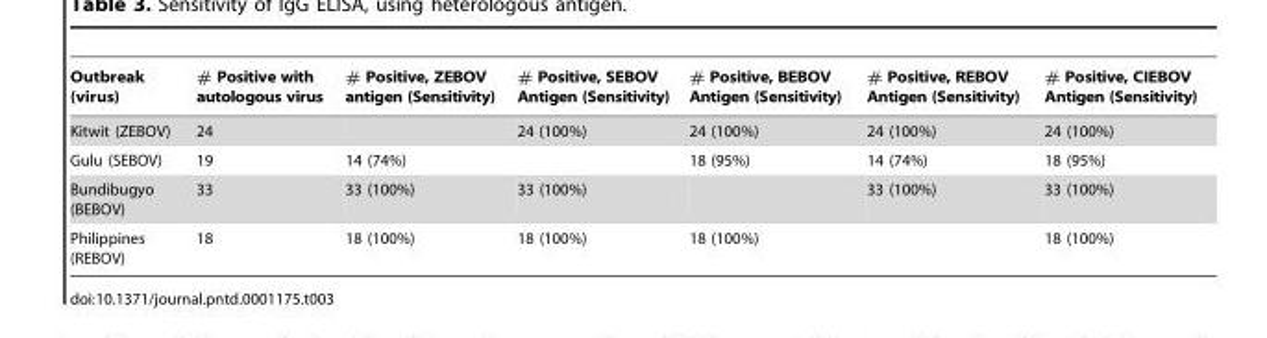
<table><thead><tr><td>Outbreak (virus)</td><td># Positive with autologous virus</td><td># Positive, ZEBOV antigen (Sensitivity)</td><td># Positive, SEBOV Antigen (Sensitivity)</td><td># Positive, BEBOV Antigen (Sensitivity)</td><td># Positive, REBOV Antigen (Sensitivity)</td><td># Positive, CIEBOV Antigen (Sensitivity)</td></tr></thead><tbody><tr><td>Kitwit (ZEBOV)</td><td>24</td><td></td><td>24 (100%)</td><td>24 (100%)</td><td>24 (100%)</td><td>24 (100%)</td></tr><tr><td>Gulu (SEBOV)</td><td>19</td><td>14 (74%)</td><td></td><td>18 (95%)</td><td>14 (74%)</td><td>18 (95%)</td></tr><tr><td>Bundibugyo (BEBOV)</td><td>33</td><td>33 (100%)</td><td>33 (100%)</td><td></td><td>33 (100%)</td><td>33 (100%)</td></tr><tr><td>Philippines (REBOV)</td><td>18</td><td>18 (100%)</td><td>18 (100%)</td><td>18 (100%)</td><td></td><td>18 (100%)</td></tr></tbody></table>